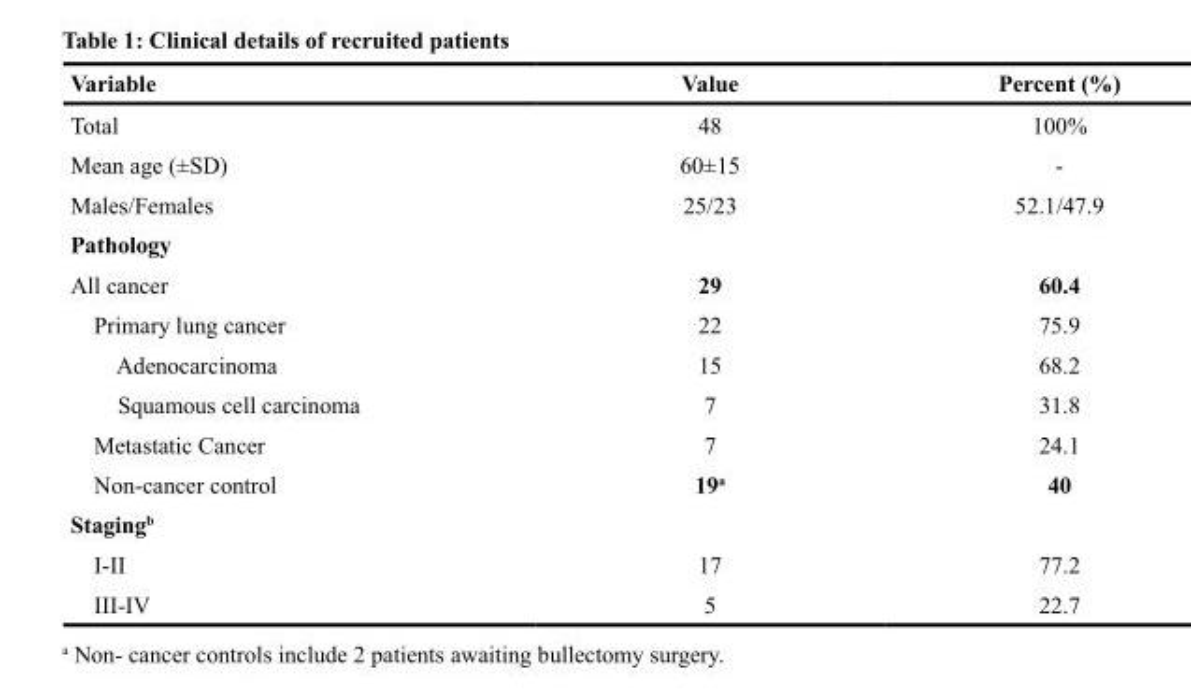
<table><thead><tr><td>Variable</td><td>Value</td><td>Percent (%)</td></tr></thead><tbody><tr><td>Total</td><td>48</td><td>100%</td></tr><tr><td>Mean age (±SD)</td><td>60±15</td><td>-</td></tr><tr><td>Males/Females</td><td>25/23</td><td>52.1/47.9</td></tr><tr><td colspan="3">Pathology</td></tr><tr><td>All cancer</td><td>29</td><td>60.4</td></tr><tr><td>Primary lung cancer</td><td>22</td><td>75.9</td></tr><tr><td>Adenocarcinoma</td><td>15</td><td>68.2</td></tr><tr><td>Squamous cell carcinoma</td><td>7</td><td>31.8</td></tr><tr><td>Metastatic Cancer</td><td>7</td><td>24.1</td></tr><tr><td>Non-cancer control</td><td>19<sup>a</sup></td><td>40</td></tr><tr><td colspan="3">Staging<sup>b</sup></td></tr><tr><td>I-II</td><td>17</td><td>77.2</td></tr><tr><td>III-IV</td><td>5</td><td>22.7</td></tr></tbody></table>